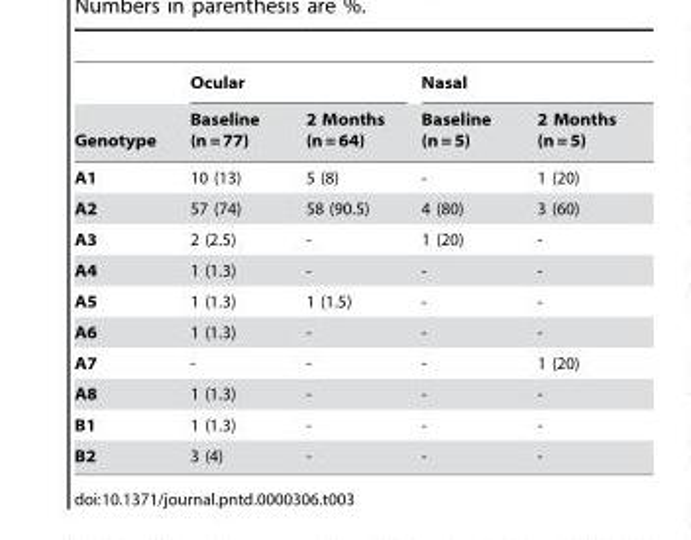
<table><thead><tr><td rowspan="2">Genotype</td><td colspan="2">Ocular</td><td colspan="2">Nasal</td></tr><tr><td>Baseline (n = 77)</td><td>2 Months (n = 64)</td><td>Baseline (n = 5)</td><td>2 Months (n = 5)</td></tr></thead><tbody><tr><td>A1</td><td>10 (13)</td><td>5 (8)</td><td>-</td><td>1 (20)</td></tr><tr><td>A2</td><td>57 (74)</td><td>58 (90.5)</td><td>4 (80)</td><td>3 (60)</td></tr><tr><td>A3</td><td>2 (2.5)</td><td>-</td><td>1 (20)</td><td>-</td></tr><tr><td>A4</td><td>1 (1.3)</td><td>-</td><td>-</td><td>-</td></tr><tr><td>A5</td><td>1 (1.3)</td><td>1 (1.5)</td><td>-</td><td>-</td></tr><tr><td>A6</td><td>1 (1.3)</td><td>-</td><td>-</td><td>-</td></tr><tr><td>A7</td><td>-</td><td>-</td><td>-</td><td>1 (20)</td></tr><tr><td>A8</td><td>1 (1.3)</td><td>-</td><td>-</td><td>-</td></tr><tr><td>B1</td><td>1 (1.3)</td><td>-</td><td>-</td><td>-</td></tr><tr><td>B2</td><td>3 (4)</td><td>-</td><td>-</td><td>-</td></tr></tbody></table>